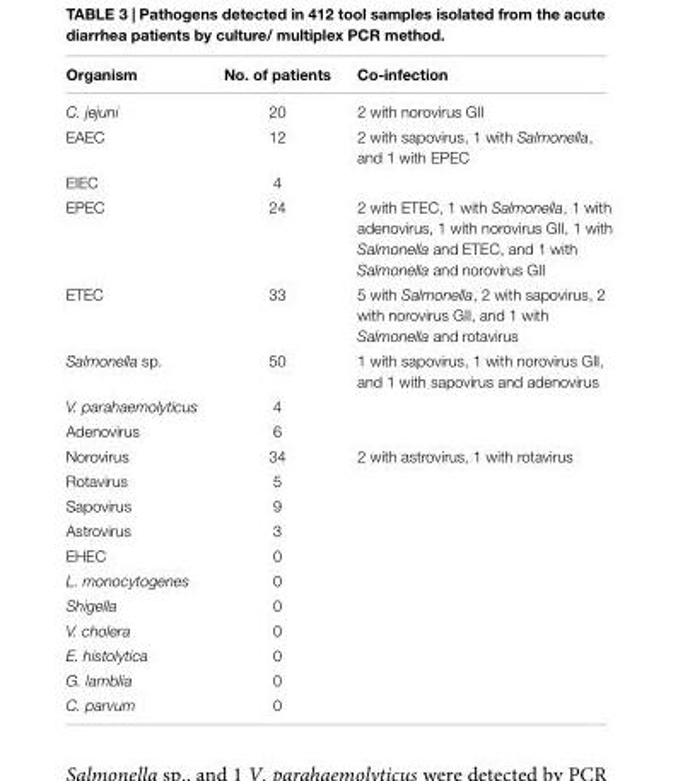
<table><thead><tr><td>Organism</td><td>No. of patients</td><td>Co-infection</td></tr></thead><tbody><tr><td>C. jejuni</td><td>20</td><td>2 with norovirus GII</td></tr><tr><td>EAEC</td><td>12</td><td>2 with sapovirus, 1 with Salmonella, and 1 with EPEC</td></tr><tr><td>EIEC</td><td>4</td><td></td></tr><tr><td>EPEC</td><td>24</td><td>2 with ETEC, 1 with Salmonella, 1 with adenovirus, 1 with norovirus GII, 1 with Salmonella and ETEC, and 1 with Salmonella and norovirus GII</td></tr><tr><td>ETEC</td><td>33</td><td>5 with Salmonella, 2 with sapovirus, 2 with norovirus GII, and 1 with Salmonella and rotavirus</td></tr><tr><td>Salmonella sp.</td><td>50</td><td>1 with sapovirus, 1 with norovirus GII, and 1 with sapovirus and adenovirus</td></tr><tr><td>V. parahaemolyticus</td><td>4</td><td></td></tr><tr><td>Adenovirus</td><td>6</td><td></td></tr><tr><td>Norovirus</td><td>34</td><td>2 with astrovirus, 1 with rotavirus</td></tr><tr><td>Rotavirus</td><td>5</td><td></td></tr><tr><td>Sapovirus</td><td>9</td><td></td></tr><tr><td>Astrovirus</td><td>3</td><td></td></tr><tr><td>EHEC</td><td>0</td><td></td></tr><tr><td>L. monocytogenes</td><td>0</td><td></td></tr><tr><td>Shigella</td><td>0</td><td></td></tr><tr><td>V. cholera</td><td>0</td><td></td></tr><tr><td>E. histolytica</td><td>0</td><td></td></tr><tr><td>G. lamblia</td><td>0</td><td></td></tr><tr><td>C. parvum</td><td>0</td><td></td></tr></tbody></table>